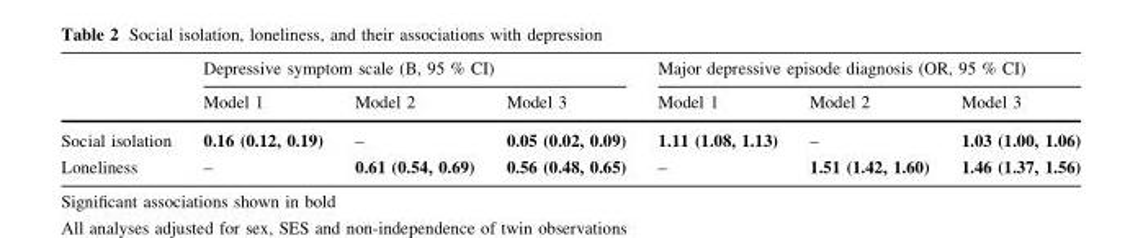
<table><thead><tr><td rowspan="2"></td><td colspan="3">Depressive symptom scale (B, 95 % CI)</td><td colspan="3">Major depressive episode diagnosis (OR, 95 % CI)</td></tr><tr><td>Model 1</td><td>Model 2</td><td>Model 3</td><td>Model 1</td><td>Model 2</td><td>Model 3</td></tr></thead><tbody><tr><td>Social isolation</td><td>0.16 (0.12, 0.19)</td><td>–</td><td>0.05 (0.02, 0.09)</td><td>1.11 (1.08, 1.13)</td><td>–</td><td>1.03 (1.00, 1.06)</td></tr><tr><td>Loneliness</td><td>–</td><td>0.61 (0.54, 0.69)</td><td>0.56 (0.48, 0.65)</td><td>–</td><td>1.51 (1.42, 1.60)</td><td>1.46 (1.37, 1.56)</td></tr></tbody></table>